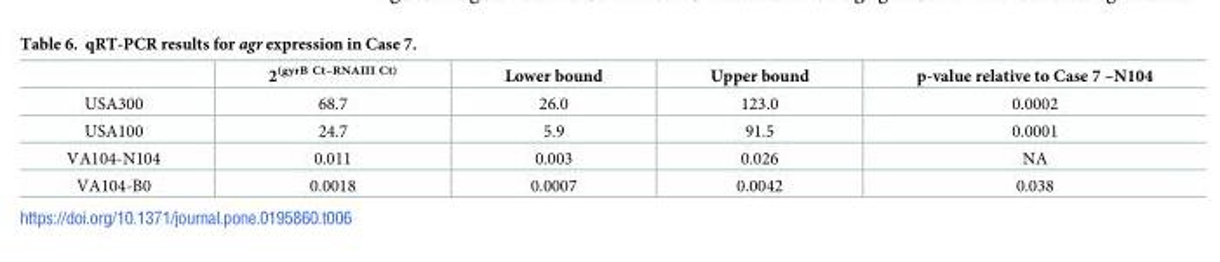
<table><thead><tr><td></td><td>2<sup>(gyrB Ct–RNAIII Ct)</sup></td><td>Lower bound</td><td>Upper bound</td><td>p-value relative to Case 7 –N104</td></tr></thead><tbody><tr><td>USA300</td><td>68.7</td><td>26.0</td><td>123.0</td><td>0.0002</td></tr><tr><td>USA100</td><td>24.7</td><td>5.9</td><td>91.5</td><td>0.0001</td></tr><tr><td>VA104-N104</td><td>0.011</td><td>0.003</td><td>0.026</td><td>NA</td></tr><tr><td>VA104-B0</td><td>0.0018</td><td>0.0007</td><td>0.0042</td><td>0.038</td></tr></tbody></table>